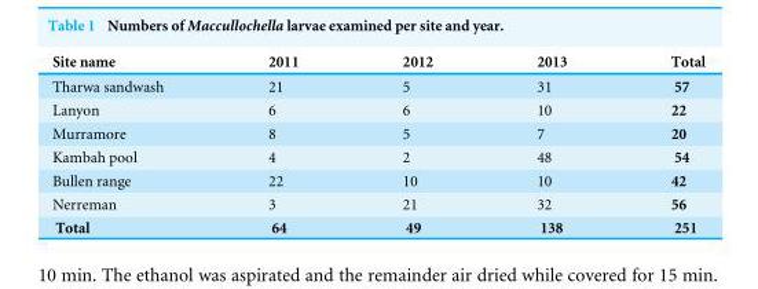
<table><thead><tr><td>Site name</td><td>2011</td><td>2012</td><td>2013</td><td>Total</td></tr></thead><tbody><tr><td>Tharwa sandwash</td><td>21</td><td>5</td><td>31</td><td>57</td></tr><tr><td>Lanyon</td><td>6</td><td>6</td><td>10</td><td>22</td></tr><tr><td>Murramore</td><td>8</td><td>5</td><td>7</td><td>20</td></tr><tr><td>Kambah pool</td><td>4</td><td>2</td><td>48</td><td>54</td></tr><tr><td>Bullen range</td><td>22</td><td>10</td><td>10</td><td>42</td></tr><tr><td>Nerreman</td><td>3</td><td>21</td><td>32</td><td>56</td></tr><tr><td>Total</td><td>64</td><td>49</td><td>138</td><td>251</td></tr></tbody></table>